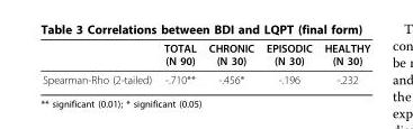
<table><thead><tr><td></td><td>TOTAL (N 90)</td><td>CHRONIC (N 30)</td><td>EPISODIC (N 30)</td><td>HEALTHY (N 30)</td></tr></thead><tbody><tr><td>Spearman-Rho (2-tailed)</td><td>-.710**</td><td>-.456*</td><td>-.196</td><td>-.232</td></tr></tbody></table>